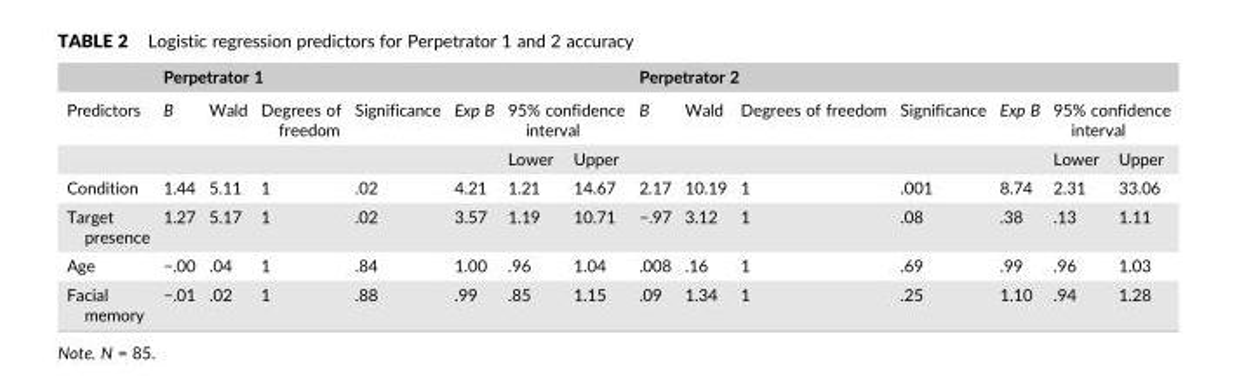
<table><thead><tr><td rowspan="2">Predictors</td><td colspan="7">Perpetrator 1</td><td colspan="7">Perpetrator 2</td></tr><tr><td>B</td><td>Wald</td><td>Degrees of freedom</td><td>Significance</td><td>Exp B</td><td colspan="2">95% confidence interval</td><td>B</td><td>Wald</td><td>Degrees of freedom</td><td>Significance</td><td>Exp B</td><td colspan="2">95% confidence interval</td></tr><tr><td colspan="6"></td><td>Lower</td><td>Upper</td><td colspan="5"></td><td>Lower</td><td>Upper</td></tr></thead><tbody><tr><td>Condition</td><td>1.44</td><td>5.11</td><td>1</td><td>.02</td><td>4.21</td><td>1.21</td><td>14.67</td><td>2.17</td><td>10.19</td><td>1</td><td>.001</td><td>8.74</td><td>2.31</td><td>33.06</td></tr><tr><td>Target presence</td><td>1.27</td><td>5.17</td><td>1</td><td>.02</td><td>3.57</td><td>1.19</td><td>10.71</td><td>−.97</td><td>3.12</td><td>1</td><td>.08</td><td>.38</td><td>.13</td><td>1.11</td></tr><tr><td>Age</td><td>−.00</td><td>.04</td><td>1</td><td>.84</td><td>1.00</td><td>.96</td><td>1.04</td><td>.008</td><td>.16</td><td>1</td><td>.69</td><td>.99</td><td>.96</td><td>1.03</td></tr><tr><td>Facial memory</td><td>−.01</td><td>.02</td><td>1</td><td>.88</td><td>.99</td><td>.85</td><td>1.15</td><td>.09</td><td>1.34</td><td>1</td><td>.25</td><td>1.10</td><td>.94</td><td>1.28</td></tr></tbody></table>